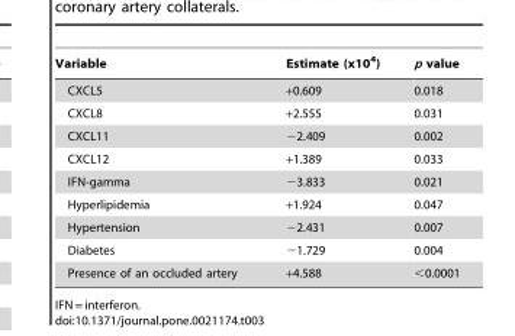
<table><thead><tr><td>Variable</td><td>Estimate (x10<sup>4</sup>)</td><td>p value</td></tr></thead><tbody><tr><td>CXCL5</td><td>+0.609</td><td>0.018</td></tr><tr><td>CXCL8</td><td>+2.555</td><td>0.031</td></tr><tr><td>CXCL11</td><td>−2.409</td><td>0.002</td></tr><tr><td>CXCL12</td><td>+1.389</td><td>0.033</td></tr><tr><td>IFN-gamma</td><td>−3.833</td><td>0.021</td></tr><tr><td>Hyperlipidemia</td><td>+1.924</td><td>0.047</td></tr><tr><td>Hypertension</td><td>−2.431</td><td>0.007</td></tr><tr><td>Diabetes</td><td>−1.729</td><td>0.004</td></tr><tr><td>Presence of an occluded artery</td><td>+4.588</td><td>&lt;0.0001</td></tr></tbody></table>